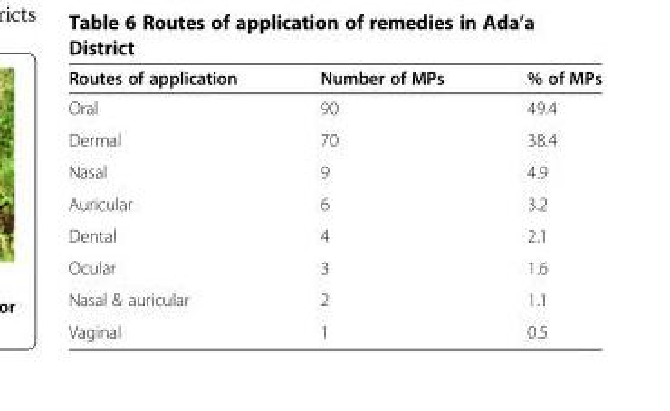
<table><thead><tr><td>Routes of application</td><td>Number of MPs</td><td>% of MPs</td></tr></thead><tbody><tr><td>Oral</td><td>90</td><td>49.4</td></tr><tr><td>Dermal</td><td>70</td><td>38.4</td></tr><tr><td>Nasal</td><td>9</td><td>4.9</td></tr><tr><td>Auricular</td><td>6</td><td>3.2</td></tr><tr><td>Dental</td><td>4</td><td>2.1</td></tr><tr><td>Ocular</td><td>3</td><td>1.6</td></tr><tr><td>Nasal &amp; auricular</td><td>2</td><td>1.1</td></tr><tr><td>Vaginal</td><td>1</td><td>0.5</td></tr></tbody></table>